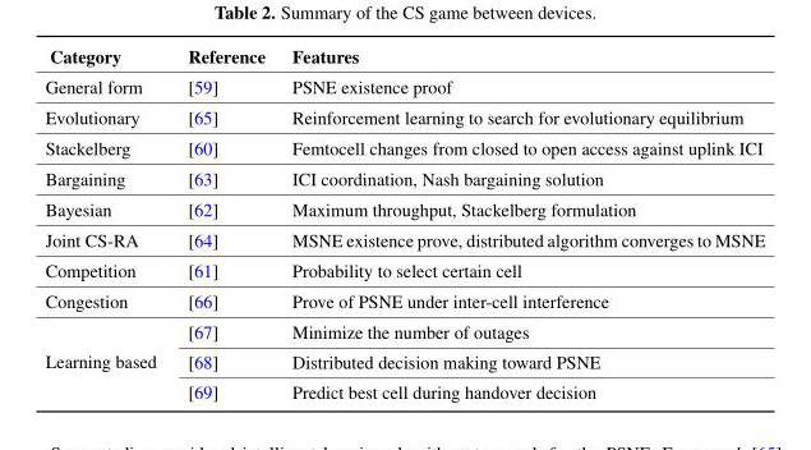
<table><thead><tr><td>Category</td><td>Reference</td><td>Features</td></tr></thead><tbody><tr><td>General form</td><td>[59]</td><td>PSNE existence proof</td></tr><tr><td>Evolutionary</td><td>[65]</td><td>Reinforcement learning to search for evolutionary equilibrium</td></tr><tr><td>Stackelberg</td><td>[60]</td><td>Femtocell changes from closed to open access against uplink ICI</td></tr><tr><td>Bargaining</td><td>[63]</td><td>ICI coordination, Nash bargaining solution</td></tr><tr><td>Bayesian</td><td>[62]</td><td>Maximum throughput, Stackelberg formulation</td></tr><tr><td>Joint CS-RA</td><td>[64]</td><td>MSNE existence prove, distributed algorithm converges to MSNE</td></tr><tr><td>Competition</td><td>[61]</td><td>Probability to select certain cell</td></tr><tr><td>Congestion</td><td>[66]</td><td>Prove of PSNE under inter-cell interference</td></tr><tr><td rowspan="3">Learning based</td><td>[67]</td><td>Minimize the number of outages</td></tr><tr><td>[68]</td><td>Distributed decision making toward PSNE</td></tr><tr><td>[69]</td><td>Predict best cell during handover decision</td></tr></tbody></table>